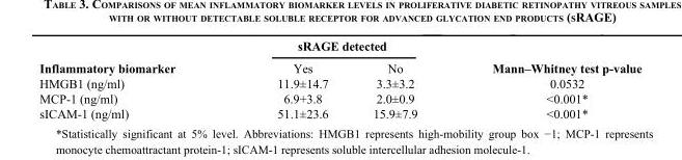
<table><thead><tr><td rowspan="2">Inflammatory biomarker</td><td colspan="2">sRAGE detected</td><td rowspan="2">Mann–Whitney test p-value</td></tr><tr><td>Yes</td><td>No</td></tr></thead><tbody><tr><td>HMGB1 (ng/ml)</td><td>11.9±14.7</td><td>3.3±3.2</td><td>0.0532</td></tr><tr><td>MCP-1 (ng/ml)</td><td>6.9+3.8</td><td>2.0±0.9</td><td>&lt;0.001*</td></tr><tr><td>sICAM-1 (ng/ml)</td><td>51.1±23.6</td><td>15.9±7.9</td><td>&lt;0.001*</td></tr></tbody></table>